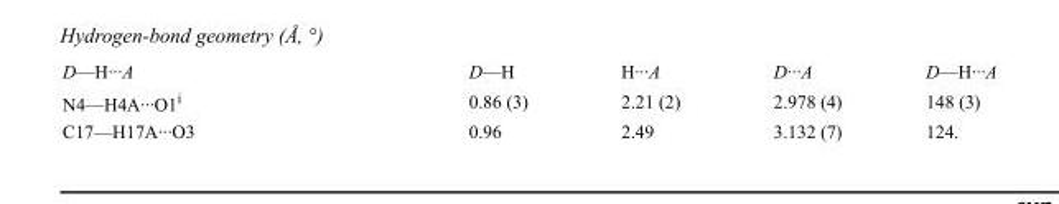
<table><tbody><tr><td>D—H···A</td><td>D—H</td><td>H···A</td><td>D···A</td><td>D—H···A</td></tr><tr><td>N4—H4A···O1<sup>i</sup></td><td>0.86 (3)</td><td>2.21 (2)</td><td>2.978 (4)</td><td>148 (3)</td></tr><tr><td>C17—H17A···O3</td><td>0.96</td><td>2.49</td><td>3.132 (7)</td><td>124.</td></tr></tbody></table>